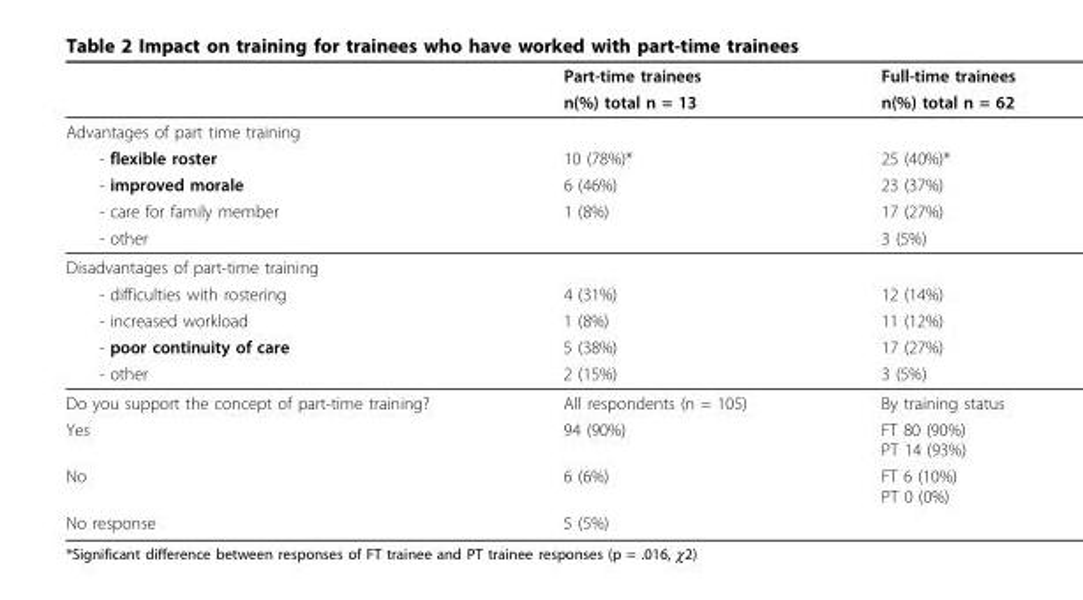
<table><thead><tr><td rowspan="2"></td><td rowspan="2">Part-time trainees n(%) total n = 13</td><td rowspan="2">Full-time trainees n(%) total n = 62</td></tr><tr></tr></thead><tbody><tr><td colspan="3">Advantages of part time training</td></tr><tr><td>- flexible roster</td><td>10 (78%)*</td><td>25 (40%)*</td></tr><tr><td>- improved morale</td><td>6 (46%)</td><td>23 (37%)</td></tr><tr><td>- care for family member</td><td>1 (8%)</td><td>17 (27%)</td></tr><tr><td>- other</td><td></td><td>3 (5%)</td></tr><tr><td colspan="3">Disadvantages of part-time training</td></tr><tr><td>- difficulties with rostering</td><td>4 (31%)</td><td>12 (14%)</td></tr><tr><td>- increased workload</td><td>1 (8%)</td><td>11 (12%)</td></tr><tr><td>- poor continuity of care</td><td>5 (38%)</td><td>17 (27%)</td></tr><tr><td>- other</td><td>2 (15%)</td><td>3 (5%)</td></tr><tr><td>Do you support the concept of part-time training?</td><td>All respondents (n = 105)</td><td>By training status</td></tr><tr><td>Yes</td><td>94 (90%)</td><td>FT 80 (90%) PT 14 (93%)</td></tr><tr><td>No</td><td>6 (6%)</td><td>FT 6 (10%) PT 0 (0%)</td></tr><tr><td>No response</td><td>5 (5%)</td><td></td></tr></tbody></table>